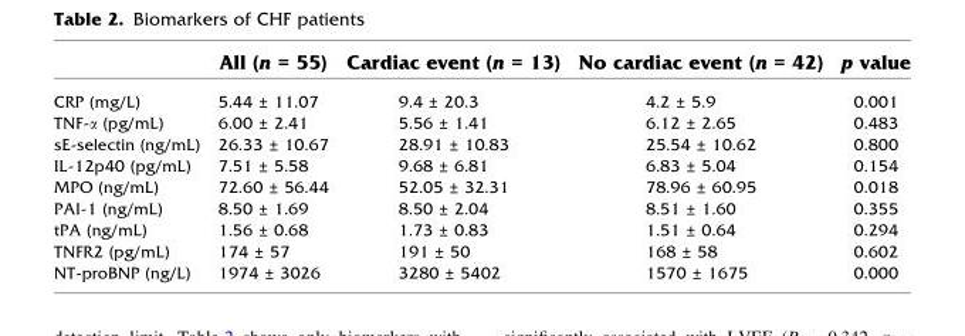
<table><thead><tr><td></td><td>All (n = 55)</td><td>Cardiac event (n = 13)</td><td>No cardiac event (n = 42)</td><td>p value</td></tr></thead><tbody><tr><td>CRP (mg/L)</td><td>5.44 ± 11.07</td><td>9.4 ± 20.3</td><td>4.2 ± 5.9</td><td>0.001</td></tr><tr><td>TNF-α (pg/mL)</td><td>6.00 ± 2.41</td><td>5.56 ± 1.41</td><td>6.12 ± 2.65</td><td>0.483</td></tr><tr><td>sE-selectin (ng/mL)</td><td>26.33 ± 10.67</td><td>28.91 ± 10.83</td><td>25.54 ± 10.62</td><td>0.800</td></tr><tr><td>IL-12p40 (pg/mL)</td><td>7.51 ± 5.58</td><td>9.68 ± 6.81</td><td>6.83 ± 5.04</td><td>0.154</td></tr><tr><td>MPO (ng/mL)</td><td>72.60 ± 56.44</td><td>52.05 ± 32.31</td><td>78.96 ± 60.95</td><td>0.018</td></tr><tr><td>PAI-1 (ng/mL)</td><td>8.50 ± 1.69</td><td>8.50 ± 2.04</td><td>8.51 ± 1.60</td><td>0.355</td></tr><tr><td>tPA (ng/mL)</td><td>1.56 ± 0.68</td><td>1.73 ± 0.83</td><td>1.51 ± 0.64</td><td>0.294</td></tr><tr><td>TNFR2 (pg/mL)</td><td>174 ± 57</td><td>191 ± 50</td><td>168 ± 58</td><td>0.602</td></tr><tr><td>NT-proBNP (ng/L)</td><td>1974 ± 3026</td><td>3280 ± 5402</td><td>1570 ± 1675</td><td>0.000</td></tr></tbody></table>